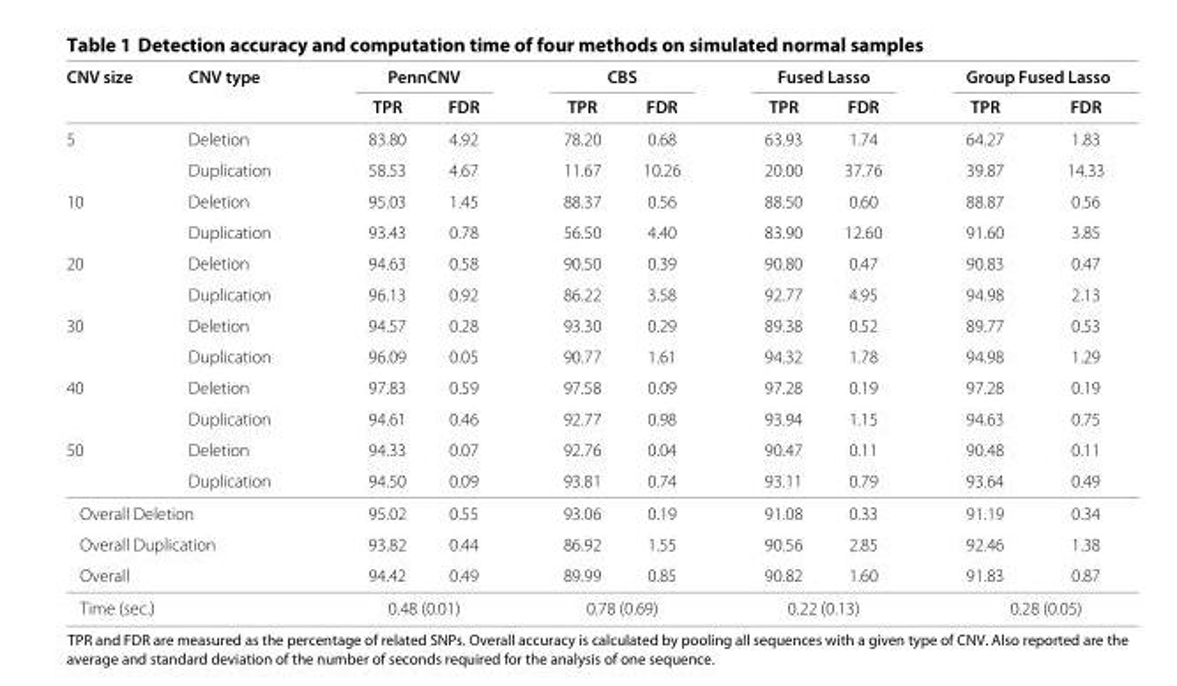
<table><thead><tr><td rowspan="2">CNV size</td><td rowspan="2">CNV type</td><td colspan="2">PennCNV</td><td colspan="2">CBS</td><td colspan="2">Fused Lasso</td><td colspan="2">Group Fused Lasso</td></tr><tr><td>TPR</td><td>FDR</td><td>TPR</td><td>FDR</td><td>TPR</td><td>FDR</td><td>TPR</td><td>FDR</td></tr></thead><tbody><tr><td rowspan="2">5</td><td>Deletion</td><td>83.80</td><td>4.92</td><td>78.20</td><td>0.68</td><td>63.93</td><td>1.74</td><td>64.27</td><td>1.83</td></tr><tr><td>Duplication</td><td>58.53</td><td>4.67</td><td>11.67</td><td>10.26</td><td>20.00</td><td>37.76</td><td>39.87</td><td>14.33</td></tr><tr><td rowspan="2">10</td><td>Deletion</td><td>95.03</td><td>1.45</td><td>88.37</td><td>0.56</td><td>88.50</td><td>0.60</td><td>88.87</td><td>0.56</td></tr><tr><td>Duplication</td><td>93.43</td><td>0.78</td><td>56.50</td><td>4.40</td><td>83.90</td><td>12.60</td><td>91.60</td><td>3.85</td></tr><tr><td rowspan="2">20</td><td>Deletion</td><td>94.63</td><td>0.58</td><td>90.50</td><td>0.39</td><td>90.80</td><td>0.47</td><td>90.83</td><td>0.47</td></tr><tr><td>Duplication</td><td>96.13</td><td>0.92</td><td>86.22</td><td>3.58</td><td>92.77</td><td>4.95</td><td>94.98</td><td>2.13</td></tr><tr><td rowspan="2">30</td><td>Deletion</td><td>94.57</td><td>0.28</td><td>93.30</td><td>0.29</td><td>89.38</td><td>0.52</td><td>89.77</td><td>0.53</td></tr><tr><td>Duplication</td><td>96.09</td><td>0.05</td><td>90.77</td><td>1.61</td><td>94.32</td><td>1.78</td><td>94.98</td><td>1.29</td></tr><tr><td rowspan="2">40</td><td>Deletion</td><td>97.83</td><td>0.59</td><td>97.58</td><td>0.09</td><td>97.28</td><td>0.19</td><td>97.28</td><td>0.19</td></tr><tr><td>Duplication</td><td>94.61</td><td>0.46</td><td>92.77</td><td>0.98</td><td>93.94</td><td>1.15</td><td>94.63</td><td>0.75</td></tr><tr><td rowspan="2">50</td><td>Deletion</td><td>94.33</td><td>0.07</td><td>92.76</td><td>0.04</td><td>90.47</td><td>0.11</td><td>90.48</td><td>0.11</td></tr><tr><td>Duplication</td><td>94.50</td><td>0.09</td><td>93.81</td><td>0.74</td><td>93.11</td><td>0.79</td><td>93.64</td><td>0.49</td></tr><tr><td colspan="2">Overall Deletion</td><td>95.02</td><td>0.55</td><td>93.06</td><td>0.19</td><td>91.08</td><td>0.33</td><td>91.19</td><td>0.34</td></tr><tr><td colspan="2">Overall Duplication</td><td>93.82</td><td>0.44</td><td>86.92</td><td>1.55</td><td>90.56</td><td>2.85</td><td>92.46</td><td>1.38</td></tr><tr><td colspan="2">Overall</td><td>94.42</td><td>0.49</td><td>89.99</td><td>0.85</td><td>90.82</td><td>1.60</td><td>91.83</td><td>0.87</td></tr><tr><td colspan="2">Time (sec.)</td><td colspan="2">0.48 (0.01)</td><td colspan="2">0.78 (0.69)</td><td colspan="2">0.22 (0.13)</td><td colspan="2">0.28 (0.05)</td></tr></tbody></table>